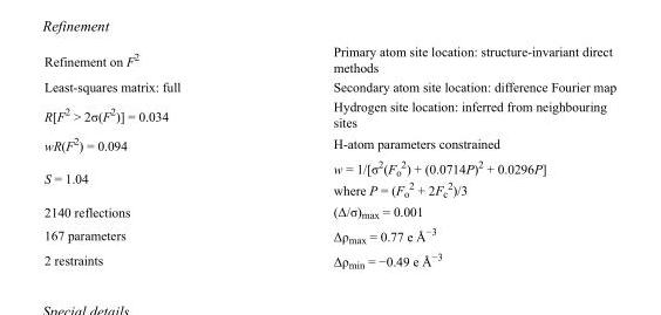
<table><tbody><tr><td>Refinement on F<sup>2</sup></td><td>Primary atom site location: structure-invariant direct methods</td></tr><tr><td>Least-squares matrix: full</td><td>Secondary atom site location: difference Fourier map</td></tr><tr><td>R[F<sup>2</sup> &gt; 2σ(F<sup>2</sup>)] = 0.034</td><td>Hydrogen site location: inferred from neighbouring sites</td></tr><tr><td>wR(F<sup>2</sup>) = 0.094</td><td>H-atom parameters constrained</td></tr><tr><td>S = 1.04</td><td>w = 1/[σ<sup>2</sup>(F<sub>o</sub> <sup>2</sup>) + (0.0714P)<sup>2</sup> + 0.0296P] where P = (F<sub>o</sub> <sup>2</sup> + 2F<sub>c</sub> <sup>2</sup>)/3</td></tr><tr><td>2140 reflections</td><td>(Δ/σ)<sub>max</sub> = 0.001</td></tr><tr><td>167 parameters</td><td>Δρ<sub>max</sub> = 0.77 e Å<sup>−3</sup></td></tr><tr><td>2 restraints</td><td>Δρ<sub>min</sub> = −0.49 e Å<sup>−3</sup></td></tr></tbody></table>